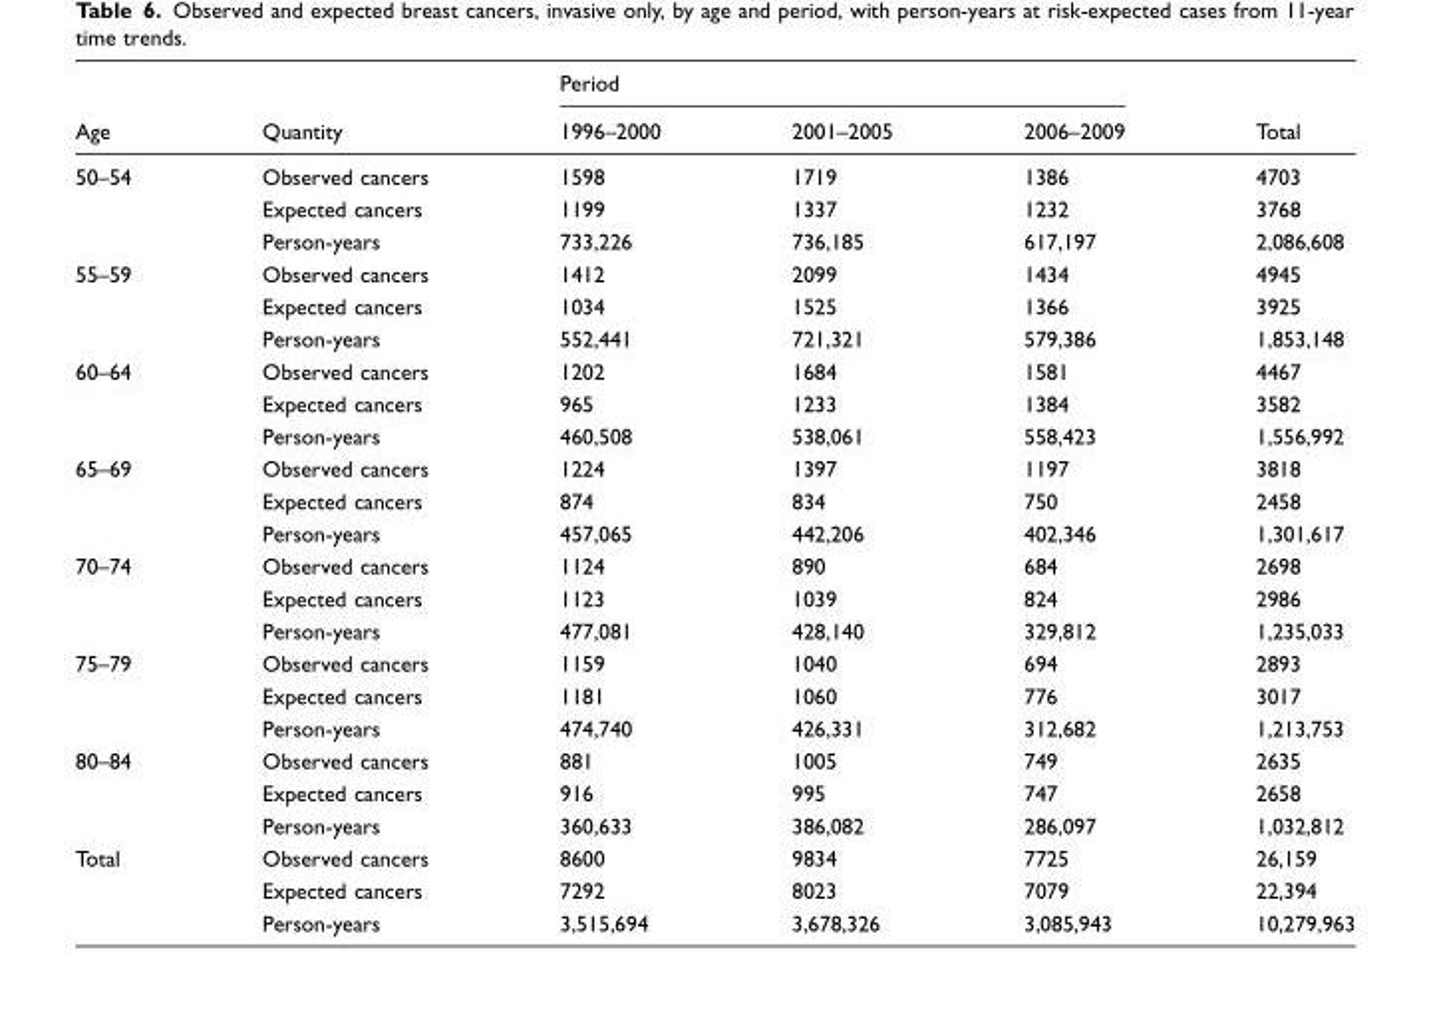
<table><thead><tr><td rowspan="2">Age</td><td rowspan="2">Quantity</td><td colspan="3">Period</td><td rowspan="2">Total</td></tr><tr><td>1996–2000</td><td>2001–2005</td><td>2006–2009</td></tr></thead><tbody><tr><td rowspan="3">50–54</td><td>Observed cancers</td><td>1598</td><td>1719</td><td>1386</td><td>4703</td></tr><tr><td>Expected cancers</td><td>1199</td><td>1337</td><td>1232</td><td>3768</td></tr><tr><td>Person-years</td><td>733,226</td><td>736,185</td><td>617,197</td><td>2,086,608</td></tr><tr><td rowspan="3">55–59</td><td>Observed cancers</td><td>1412</td><td>2099</td><td>1434</td><td>4945</td></tr><tr><td>Expected cancers</td><td>1034</td><td>1525</td><td>1366</td><td>3925</td></tr><tr><td>Person-years</td><td>552,441</td><td>721,321</td><td>579,386</td><td>1,853,148</td></tr><tr><td rowspan="3">60–64</td><td>Observed cancers</td><td>1202</td><td>1684</td><td>1581</td><td>4467</td></tr><tr><td>Expected cancers</td><td>965</td><td>1233</td><td>1384</td><td>3582</td></tr><tr><td>Person-years</td><td>460,508</td><td>538,061</td><td>558,423</td><td>1,556,992</td></tr><tr><td rowspan="3">65–69</td><td>Observed cancers</td><td>1224</td><td>1397</td><td>1197</td><td>3818</td></tr><tr><td>Expected cancers</td><td>874</td><td>834</td><td>750</td><td>2458</td></tr><tr><td>Person-years</td><td>457,065</td><td>442,206</td><td>402,346</td><td>1,301,617</td></tr><tr><td rowspan="3">70–74</td><td>Observed cancers</td><td>1124</td><td>890</td><td>684</td><td>2698</td></tr><tr><td>Expected cancers</td><td>1123</td><td>1039</td><td>824</td><td>2986</td></tr><tr><td>Person-years</td><td>477,081</td><td>428,140</td><td>329,812</td><td>1,235,033</td></tr><tr><td rowspan="3">75–79</td><td>Observed cancers</td><td>1159</td><td>1040</td><td>694</td><td>2893</td></tr><tr><td>Expected cancers</td><td>1181</td><td>1060</td><td>776</td><td>3017</td></tr><tr><td>Person-years</td><td>474,740</td><td>426,331</td><td>312,682</td><td>1,213,753</td></tr><tr><td rowspan="3">80–84</td><td>Observed cancers</td><td>881</td><td>1005</td><td>749</td><td>2635</td></tr><tr><td>Expected cancers</td><td>916</td><td>995</td><td>747</td><td>2658</td></tr><tr><td>Person-years</td><td>360,633</td><td>386,082</td><td>286,097</td><td>1,032,812</td></tr><tr><td rowspan="3">Total</td><td>Observed cancers</td><td>8600</td><td>9834</td><td>7725</td><td>26,159</td></tr><tr><td>Expected cancers</td><td>7292</td><td>8023</td><td>7079</td><td>22,394</td></tr><tr><td>Person-years</td><td>3,515,694</td><td>3,678,326</td><td>3,085,943</td><td>10,279,963</td></tr></tbody></table>